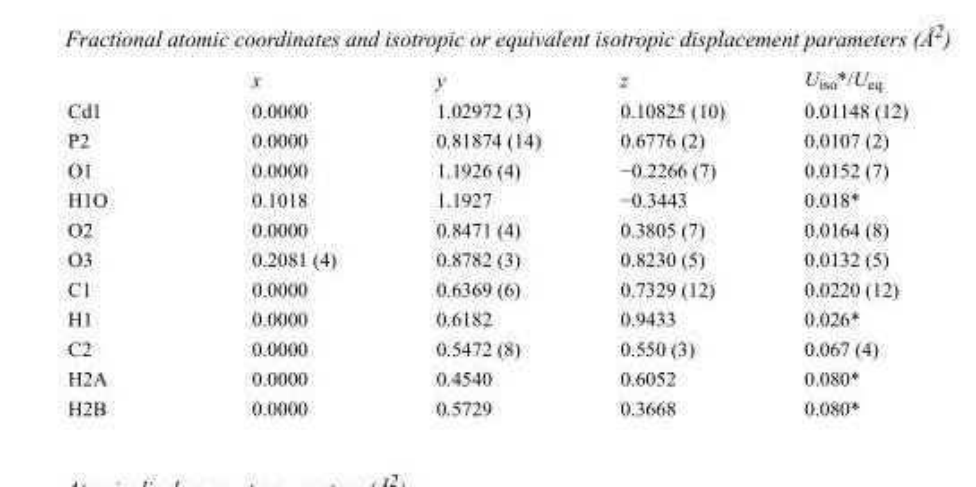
<table><thead><tr><td></td><td>x</td><td>y</td><td>z</td><td>U<sub>iso</sub>*/U<sub>eq</sub></td></tr></thead><tbody><tr><td>Cd1</td><td>0.0000</td><td>1.02972 (3)</td><td>0.10825 (10)</td><td>0.01148 (12)</td></tr><tr><td>P2</td><td>0.0000</td><td>0.81874 (14)</td><td>0.6776 (2)</td><td>0.0107 (2)</td></tr><tr><td>O1</td><td>0.0000</td><td>1.1926 (4)</td><td>−0.2266 (7)</td><td>0.0152 (7)</td></tr><tr><td>H1O</td><td>0.1018</td><td>1.1927</td><td>−0.3443</td><td>0.018*</td></tr><tr><td>O2</td><td>0.0000</td><td>0.8471 (4)</td><td>0.3805 (7)</td><td>0.0164 (8)</td></tr><tr><td>O3</td><td>0.2081 (4)</td><td>0.8782 (3)</td><td>0.8230 (5)</td><td>0.0132 (5)</td></tr><tr><td>C1</td><td>0.0000</td><td>0.6369 (6)</td><td>0.7329 (12)</td><td>0.0220 (12)</td></tr><tr><td>H1</td><td>0.0000</td><td>0.6182</td><td>0.9433</td><td>0.026*</td></tr><tr><td>C2</td><td>0.0000</td><td>0.5472 (8)</td><td>0.550 (3)</td><td>0.067 (4)</td></tr><tr><td>H2A</td><td>0.0000</td><td>0.4540</td><td>0.6052</td><td>0.080*</td></tr><tr><td>H2B</td><td>0.0000</td><td>0.5729</td><td>0.3668</td><td>0.080*</td></tr></tbody></table>